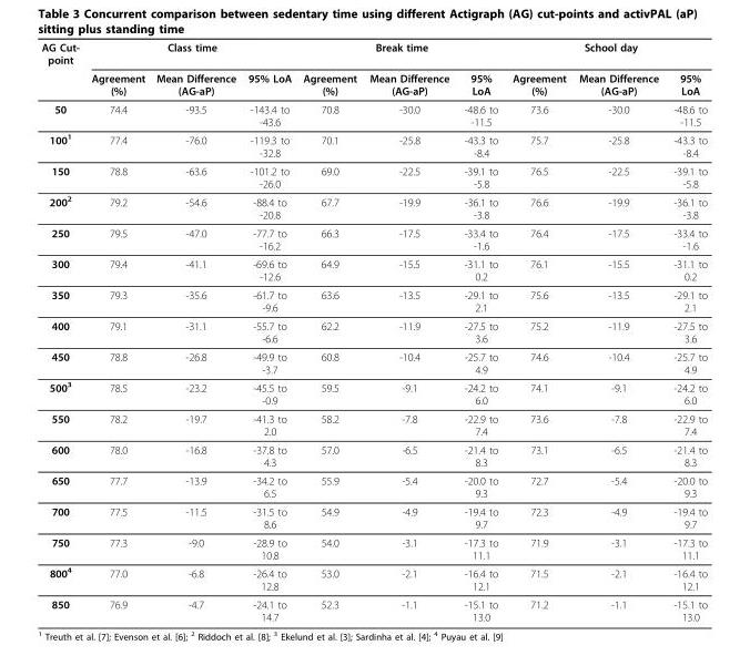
<table><thead><tr><td rowspan="2">AG Cut- point</td><td colspan="3">Class time</td><td colspan="3">Break time</td><td colspan="3">School day</td></tr><tr><td>Agreement (%)</td><td>Mean Difference (AG-aP)</td><td>95% LoA</td><td>Agreement (%)</td><td>Mean Difference (AG-aP)</td><td>95% LoA</td><td>Agreement (%)</td><td>Mean Difference (AG-aP)</td><td>95% LoA</td></tr></thead><tbody><tr><td>50</td><td>74.4</td><td>-93.5</td><td>-143.4 to -43.6</td><td>70.8</td><td>-30.0</td><td>-48.6 to -11.5</td><td>73.6</td><td>-30.0</td><td>-48.6 to -11.5</td></tr><tr><td>100<sup>1</sup></td><td>77.4</td><td>-76.0</td><td>-119.3 to -32.8</td><td>70.1</td><td>-25.8</td><td>-43.3 to -8.4</td><td>75.7</td><td>-25.8</td><td>-43.3 to -8.4</td></tr><tr><td>150</td><td>78.8</td><td>-63.6</td><td>-101.2 to -26.0</td><td>69.0</td><td>-22.5</td><td>-39.1 to -5.8</td><td>76.5</td><td>-22.5</td><td>-39.1 to -5.8</td></tr><tr><td>200<sup>2</sup></td><td>79.2</td><td>-54.6</td><td>-88.4 to -20.8</td><td>67.7</td><td>-19.9</td><td>-36.1 to -3.8</td><td>76.6</td><td>-19.9</td><td>-36.1 to -3.8</td></tr><tr><td>250</td><td>79.5</td><td>-47.0</td><td>-77.7 to -16.2</td><td>66.3</td><td>-17.5</td><td>-33.4 to -1.6</td><td>76.4</td><td>-17.5</td><td>-33.4 to -1.6</td></tr><tr><td>300</td><td>79.4</td><td>-41.1</td><td>-69.6 to -12.6</td><td>64.9</td><td>-15.5</td><td>-31.1 to 0.2</td><td>76.1</td><td>-15.5</td><td>-31.1 to 0.2</td></tr><tr><td>350</td><td>79.3</td><td>-35.6</td><td>-61.7 to -9.6</td><td>63.6</td><td>-13.5</td><td>-29.1 to 2.1</td><td>75.6</td><td>-13.5</td><td>-29.1 to 2.1</td></tr><tr><td>400</td><td>79.1</td><td>-31.1</td><td>-55.7 to -6.6</td><td>62.2</td><td>-11.9</td><td>-27.5 to 3.6</td><td>75.2</td><td>-11.9</td><td>-27.5 to 3.6</td></tr><tr><td>450</td><td>78.8</td><td>-26.8</td><td>-49.9 to -3.7</td><td>60.8</td><td>-10.4</td><td>-25.7 to 4.9</td><td>74.6</td><td>-10.4</td><td>-25.7 to 4.9</td></tr><tr><td>500<sup>3</sup></td><td>78.5</td><td>-23.2</td><td>-45.5 to -0.9</td><td>59.5</td><td>-9.1</td><td>-24.2 to 6.0</td><td>74.1</td><td>-9.1</td><td>-24.2 to 6.0</td></tr><tr><td>550</td><td>78.2</td><td>-19.7</td><td>-41.3 to 2.0</td><td>58.2</td><td>-7.8</td><td>-22.9 to 7.4</td><td>73.6</td><td>-7.8</td><td>-22.9 to 7.4</td></tr><tr><td>600</td><td>78.0</td><td>-16.8</td><td>-37.8 to 4.3</td><td>57.0</td><td>-6.5</td><td>-21.4 to 8.3</td><td>73.1</td><td>-6.5</td><td>-21.4 to 8.3</td></tr><tr><td>650</td><td>77.7</td><td>-13.9</td><td>-34.2 to 6.5</td><td>55.9</td><td>-5.4</td><td>-20.0 to 9.3</td><td>72.7</td><td>-5.4</td><td>-20.0 to 9.3</td></tr><tr><td>700</td><td>77.5</td><td>-11.5</td><td>-31.5 to 8.6</td><td>54.9</td><td>-4.9</td><td>-19.4 to 9.7</td><td>72.3</td><td>-4.9</td><td>-19.4 to 9.7</td></tr><tr><td>750</td><td>77.3</td><td>-9.0</td><td>-28.9 to 10.8</td><td>54.0</td><td>-3.1</td><td>-17.3 to 11.1</td><td>71.9</td><td>-3.1</td><td>-17.3 to 11.1</td></tr><tr><td>800<sup>4</sup></td><td>77.0</td><td>-6.8</td><td>-26.4 to 12.8</td><td>53.0</td><td>-2.1</td><td>-16.4 to 12.1</td><td>71.5</td><td>-2.1</td><td>-16.4 to 12.1</td></tr><tr><td>850</td><td>76.9</td><td>-4.7</td><td>-24.1 to 14.7</td><td>52.3</td><td>-1.1</td><td>-15.1 to 13.0</td><td>71.2</td><td>-1.1</td><td>-15.1 to 13.0</td></tr></tbody></table>